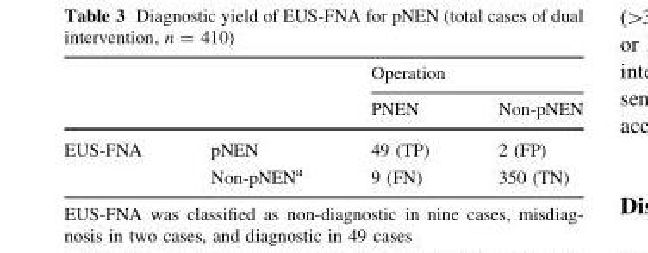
<table><thead><tr><td rowspan="2"></td><td rowspan="2"></td><td colspan="2">Operation</td></tr><tr><td>PNEN</td><td>Non-pNEN</td></tr></thead><tbody><tr><td rowspan="2">EUS-FNA</td><td>pNEN</td><td>49 (TP)</td><td>2 (FP)</td></tr><tr><td>Non-pNEN<sup>a</sup></td><td>9 (FN)</td><td>350 (TN)</td></tr></tbody></table>